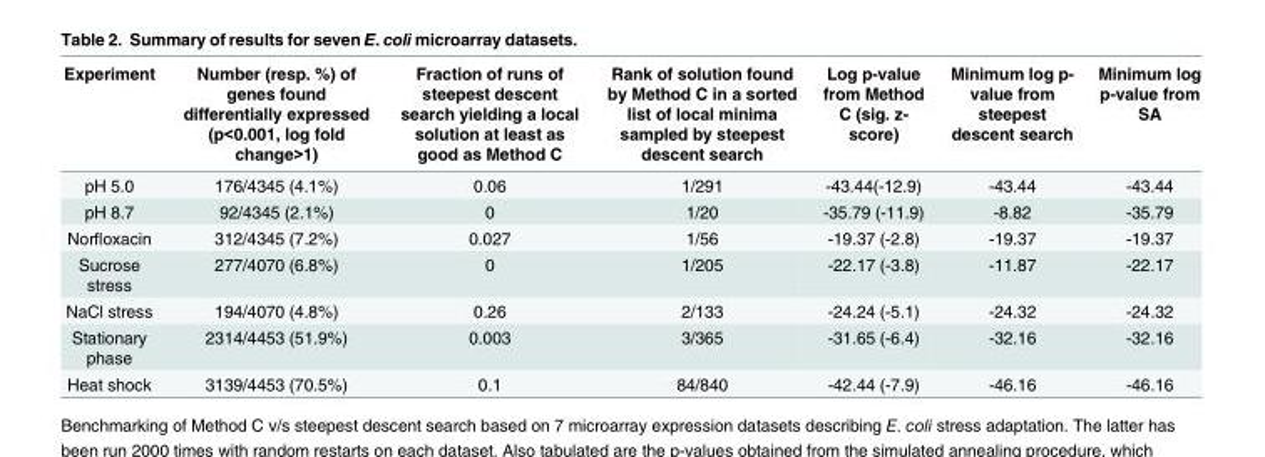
<table><thead><tr><td>Experiment</td><td>Number (resp. %) of genes found differentially expressed (p&lt;0.001, log fold change&gt;1)</td><td>Fraction of runs of steepest descent search yielding a local solution at least as good as Method C</td><td>Rank of solution found by Method C in a sorted list of local minima sampled by steepest descent search</td><td>Log p-value from Method C (sig. z- score)</td><td>Minimum log p- value from steepest descent search</td><td>Minimum log p-value from SA</td></tr></thead><tbody><tr><td>pH 5.0</td><td>176/4345 (4.1%)</td><td>0.06</td><td>1/291</td><td>-43.44(-12.9)</td><td>-43.44</td><td>-43.44</td></tr><tr><td>pH 8.7</td><td>92/4345 (2.1%)</td><td>0</td><td>1/20</td><td>-35.79 (-11.9)</td><td>-8.82</td><td>-35.79</td></tr><tr><td>Norfloxacin</td><td>312/4345 (7.2%)</td><td>0.027</td><td>1/56</td><td>-19.37 (-2.8)</td><td>-19.37</td><td>-19.37</td></tr><tr><td>Sucrose stress</td><td>277/4070 (6.8%)</td><td>0</td><td>1/205</td><td>-22.17 (-3.8)</td><td>-11.87</td><td>-22.17</td></tr><tr><td>NaCl stress</td><td>194/4070 (4.8%)</td><td>0.26</td><td>2/133</td><td>-24.24 (-5.1)</td><td>-24.32</td><td>-24.32</td></tr><tr><td>Stationary phase</td><td>2314/4453 (51.9%)</td><td>0.003</td><td>3/365</td><td>-31.65 (-6.4)</td><td>-32.16</td><td>-32.16</td></tr><tr><td>Heat shock</td><td>3139/4453 (70.5%)</td><td>0.1</td><td>84/840</td><td>-42.44 (-7.9)</td><td>-46.16</td><td>-46.16</td></tr></tbody></table>